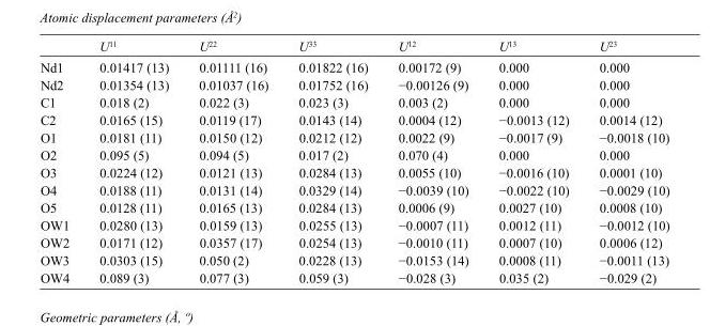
<table><thead><tr><td></td><td>U<sup>11</sup></td><td>U<sup>22</sup></td><td>U<sup>33</sup></td><td>U<sup>12</sup></td><td>U<sup>13</sup></td><td>U<sup>23</sup></td></tr></thead><tbody><tr><td>Nd1</td><td>0.01417 (13)</td><td>0.01111 (16)</td><td>0.01822 (16)</td><td>0.00172 (9)</td><td>0.000</td><td>0.000</td></tr><tr><td>Nd2</td><td>0.01354 (13)</td><td>0.01037 (16)</td><td>0.01752 (16)</td><td>−0.00126 (9)</td><td>0.000</td><td>0.000</td></tr><tr><td>C1</td><td>0.018 (2)</td><td>0.022 (3)</td><td>0.023 (3)</td><td>0.003 (2)</td><td>0.000</td><td>0.000</td></tr><tr><td>C2</td><td>0.0165 (15)</td><td>0.0119 (17)</td><td>0.0143 (14)</td><td>0.0004 (12)</td><td>−0.0013 (12)</td><td>0.0014 (12)</td></tr><tr><td>O1</td><td>0.0181 (11)</td><td>0.0150 (12)</td><td>0.0212 (12)</td><td>0.0022 (9)</td><td>−0.0017 (9)</td><td>−0.0018 (10)</td></tr><tr><td>O2</td><td>0.095 (5)</td><td>0.094 (5)</td><td>0.017 (2)</td><td>0.070 (4)</td><td>0.000</td><td>0.000</td></tr><tr><td>O3</td><td>0.0224 (12)</td><td>0.0121 (13)</td><td>0.0284 (13)</td><td>0.0055 (10)</td><td>−0.0016 (10)</td><td>0.0001 (10)</td></tr><tr><td>O4</td><td>0.0188 (11)</td><td>0.0131 (14)</td><td>0.0329 (14)</td><td>−0.0039 (10)</td><td>−0.0022 (10)</td><td>−0.0029 (10)</td></tr><tr><td>O5</td><td>0.0128 (11)</td><td>0.0165 (13)</td><td>0.0284 (13)</td><td>0.0006 (9)</td><td>0.0027 (10)</td><td>0.0008 (10)</td></tr><tr><td>OW1</td><td>0.0280 (13)</td><td>0.0159 (13)</td><td>0.0255 (13)</td><td>−0.0007 (11)</td><td>0.0012 (11)</td><td>−0.0012 (10)</td></tr><tr><td>OW2</td><td>0.0171 (12)</td><td>0.0357 (17)</td><td>0.0254 (13)</td><td>−0.0010 (11)</td><td>0.0007 (10)</td><td>0.0006 (12)</td></tr><tr><td>OW3</td><td>0.0303 (15)</td><td>0.050 (2)</td><td>0.0228 (13)</td><td>−0.0153 (14)</td><td>0.0008 (11)</td><td>−0.0011 (13)</td></tr><tr><td>OW4</td><td>0.089 (3)</td><td>0.077 (3)</td><td>0.059 (3)</td><td>−0.028 (3)</td><td>0.035 (2)</td><td>−0.029 (2)</td></tr></tbody></table>